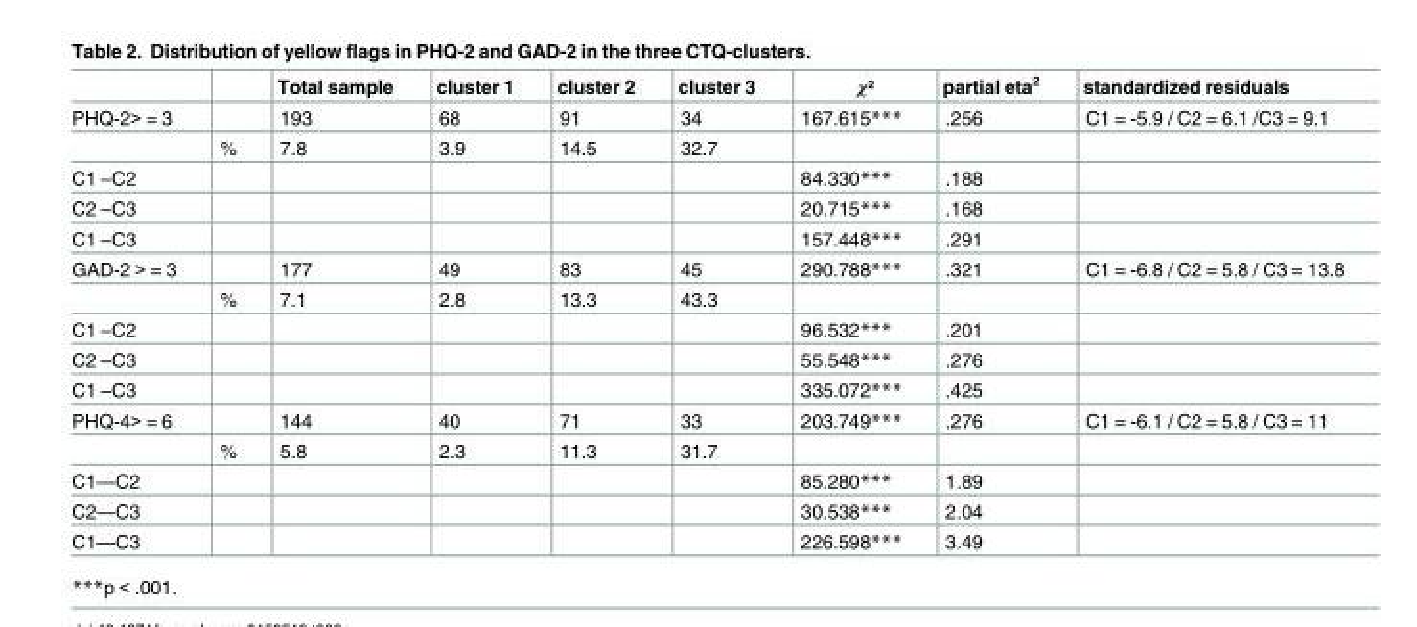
<table><thead><tr><td></td><td></td><td>Total sample</td><td>cluster 1</td><td>cluster 2</td><td>cluster 3</td><td>χ²</td><td>partial eta<sup>2</sup></td><td>standardized residuals</td></tr></thead><tbody><tr><td rowspan="2">PHQ-2&gt; = 3</td><td></td><td>193</td><td>68</td><td>91</td><td>34</td><td>167.615***</td><td>.256</td><td>C1 = -5.9 / C2 = 6.1 /C3 = 9.1</td></tr><tr><td>%</td><td>7.8</td><td>3.9</td><td>14.5</td><td>32.7</td><td></td><td></td><td></td></tr><tr><td>C1 –C2</td><td></td><td></td><td></td><td></td><td></td><td>84.330***</td><td>.188</td><td></td></tr><tr><td>C2 –C3</td><td></td><td></td><td></td><td></td><td></td><td>20.715***</td><td>.168</td><td></td></tr><tr><td>C1 –C3</td><td></td><td></td><td></td><td></td><td></td><td>157.448***</td><td>.291</td><td></td></tr><tr><td rowspan="2">GAD-2 &gt; = 3</td><td></td><td>177</td><td>49</td><td>83</td><td>45</td><td>290.788***</td><td>.321</td><td>C1 = -6.8 / C2 = 5.8 / C3 = 13.8</td></tr><tr><td>%</td><td>7.1</td><td>2.8</td><td>13.3</td><td>43.3</td><td></td><td></td><td></td></tr><tr><td>C1 –C2</td><td></td><td></td><td></td><td></td><td></td><td>96.532***</td><td>.201</td><td></td></tr><tr><td>C2 –C3</td><td></td><td></td><td></td><td></td><td></td><td>55.548***</td><td>.276</td><td></td></tr><tr><td>C1 –C3</td><td></td><td></td><td></td><td></td><td></td><td>335.072***</td><td>.425</td><td></td></tr><tr><td rowspan="2">PHQ-4&gt; = 6</td><td></td><td>144</td><td>40</td><td>71</td><td>33</td><td>203.749***</td><td>.276</td><td>C1 = -6.1 / C2 = 5.8 / C3 = 11</td></tr><tr><td>%</td><td>5.8</td><td>2.3</td><td>11.3</td><td>31.7</td><td></td><td></td><td></td></tr><tr><td>C1—C2</td><td></td><td></td><td></td><td></td><td></td><td>85.280***</td><td>1.89</td><td></td></tr><tr><td>C2—C3</td><td></td><td></td><td></td><td></td><td></td><td>30.538***</td><td>2.04</td><td></td></tr><tr><td>C1—C3</td><td></td><td></td><td></td><td></td><td></td><td>226.598***</td><td>3.49</td><td></td></tr></tbody></table>